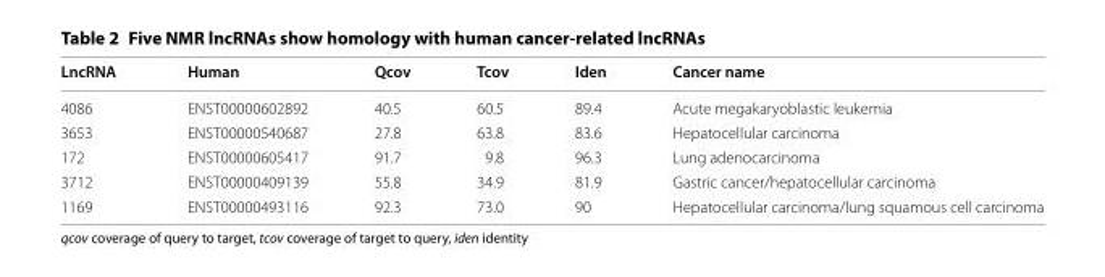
<table><thead><tr><td>LncRNA</td><td>Human</td><td>Qcov</td><td>Tcov</td><td>Iden</td><td>Cancer name</td></tr></thead><tbody><tr><td>4086</td><td>ENST00000602892</td><td>40.5</td><td>60.5</td><td>89.4</td><td>Acute megakaryoblastic leukemia</td></tr><tr><td>3653</td><td>ENST00000540687</td><td>27.8</td><td>63.8</td><td>83.6</td><td>Hepatocellular carcinoma</td></tr><tr><td>172</td><td>ENST00000605417</td><td>91.7</td><td>9.8</td><td>96.3</td><td>Lung adenocarcinoma</td></tr><tr><td>3712</td><td>ENST00000409139</td><td>55.8</td><td>34.9</td><td>81.9</td><td>Gastric cancer/hepatocellular carcinoma</td></tr><tr><td>1169</td><td>ENST00000493116</td><td>92.3</td><td>73.0</td><td>90</td><td>Hepatocellular carcinoma/lung squamous cell carcinoma</td></tr></tbody></table>